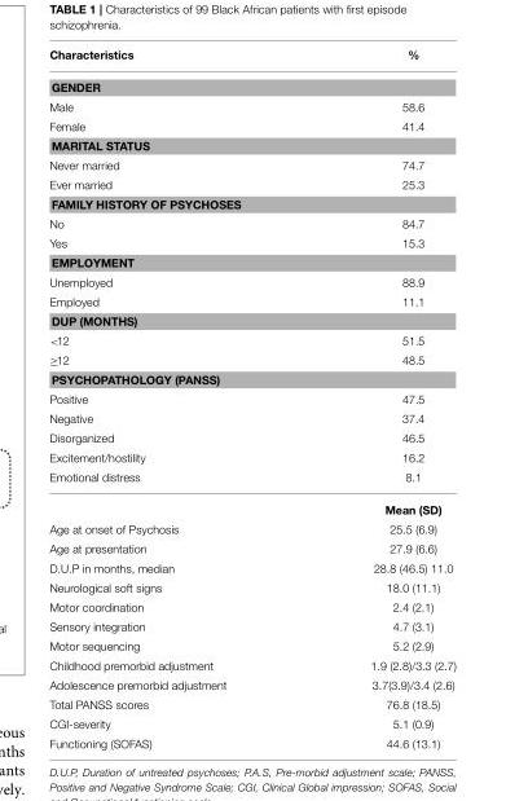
<table><thead><tr><td>Characteristics</td><td>%</td></tr></thead><tbody><tr><td colspan="2">GENDER</td></tr><tr><td>Male</td><td>58.6</td></tr><tr><td>Female</td><td>41.4</td></tr><tr><td colspan="2">MARITAL STATUS</td></tr><tr><td>Never married</td><td>74.7</td></tr><tr><td>Ever married</td><td>25.3</td></tr><tr><td colspan="2">FAMILY HISTORY OF PSYCHOSES</td></tr><tr><td>No</td><td>84.7</td></tr><tr><td>Yes</td><td>15.3</td></tr><tr><td colspan="2">EMPLOYMENT</td></tr><tr><td>Unemployed</td><td>88.9</td></tr><tr><td>Employed</td><td>11.1</td></tr><tr><td colspan="2">DUP (MONTHS)</td></tr><tr><td>&lt;12</td><td>51.5</td></tr><tr><td>≥12</td><td>48.5</td></tr><tr><td colspan="2">PSYCHOPATHOLOGY (PANSS)</td></tr><tr><td>Positive</td><td>47.5</td></tr><tr><td>Negative</td><td>37.4</td></tr><tr><td>Disorganized</td><td>46.5</td></tr><tr><td>Excitement/hostility</td><td>16.2</td></tr><tr><td rowspan="2">Emotional distress</td><td>8.1</td></tr><tr><td>Mean (SD)</td></tr><tr><td>Age at onset of Psychosis</td><td>25.5 (6.9)</td></tr><tr><td>Age at presentation</td><td>27.9 (6.6)</td></tr><tr><td>D.U.P in months, median</td><td>28.8 (46.5) 11.0</td></tr><tr><td>Neurological soft signs</td><td>18.0 (11.1)</td></tr><tr><td>Motor coordination</td><td>2.4 (2.1)</td></tr><tr><td>Sensory integration</td><td>4.7 (3.1)</td></tr><tr><td>Motor sequencing</td><td>5.2 (2.9)</td></tr><tr><td>Childhood premorbid adjustment</td><td>1.9 (2.8)/3.3 (2.7)</td></tr><tr><td>Adolescence premorbid adjustment</td><td>3.7(3.9)/3.4 (2.6)</td></tr><tr><td>Total PANSS scores</td><td>76.8 (18.5)</td></tr><tr><td>CGI-severity</td><td>5.1 (0.9)</td></tr><tr><td>Functioning (SOFAS)</td><td>44.6 (13.1)</td></tr></tbody></table>